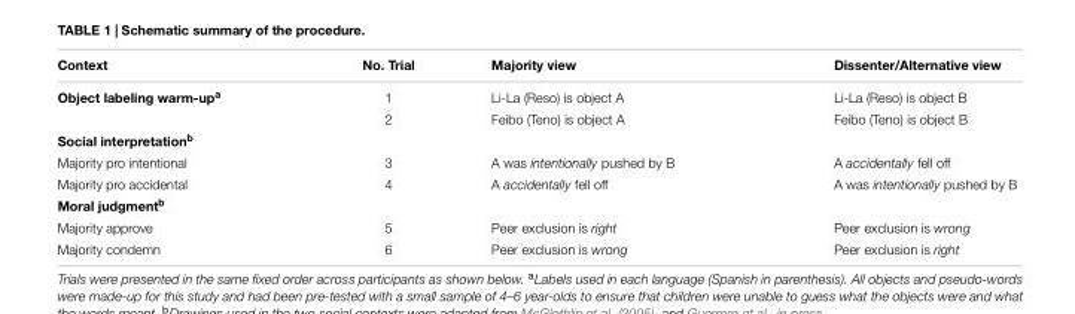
<table><thead><tr><td>Context</td><td>No. Trial</td><td>Majority view</td><td>Dissenter/Alternative view</td></tr></thead><tbody><tr><td rowspan="2">Object labeling warm-up<sup>a</sup></td><td>1</td><td>Li-La (Reso) is object A</td><td>Li-La (Reso) is object B</td></tr><tr><td>2</td><td>Feibo (Teno) is object A</td><td>Feibo (Teno) is object B</td></tr><tr><td colspan="4">Social interpretation<sup>b</sup></td></tr><tr><td>Majority pro intentional</td><td>3</td><td>A was intentionally pushed by B</td><td>A accidentally fell off</td></tr><tr><td>Majority pro accidental</td><td>4</td><td>A accidentally fell off</td><td>A was intentionally pushed by B</td></tr><tr><td colspan="4">Moral judgment<sup>b</sup></td></tr><tr><td>Majority approve</td><td>5</td><td>Peer exclusion is right</td><td>Peer exclusion is wrong</td></tr><tr><td>Majority condemn</td><td>6</td><td>Peer exclusion is wrong</td><td>Peer exclusion is right</td></tr></tbody></table>